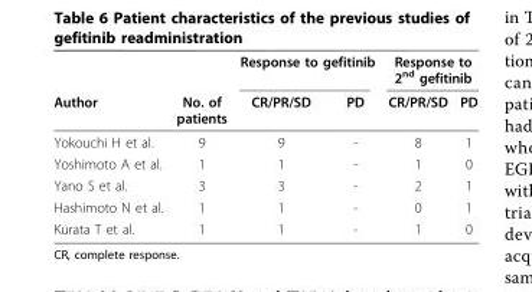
<table><thead><tr><td rowspan="2">Author</td><td rowspan="2">No. of patients</td><td colspan="2">Response to gefitinib</td><td colspan="2">Response to 2<sup>nd</sup> gefitinib</td></tr><tr><td>CR/PR/SD</td><td>PD</td><td>CR/PR/SD</td><td>PD</td></tr></thead><tbody><tr><td>Yokouchi H et al.</td><td>9</td><td>9</td><td>-</td><td>8</td><td>1</td></tr><tr><td>Yoshimoto A et al.</td><td>1</td><td>1</td><td>-</td><td>1</td><td>0</td></tr><tr><td>Yano S et al.</td><td>3</td><td>3</td><td>-</td><td>2</td><td>1</td></tr><tr><td>Hashimoto N et al.</td><td>1</td><td>1</td><td>-</td><td>0</td><td>1</td></tr><tr><td>Kurata T et al.</td><td>1</td><td>1</td><td>-</td><td>1</td><td>0</td></tr></tbody></table>